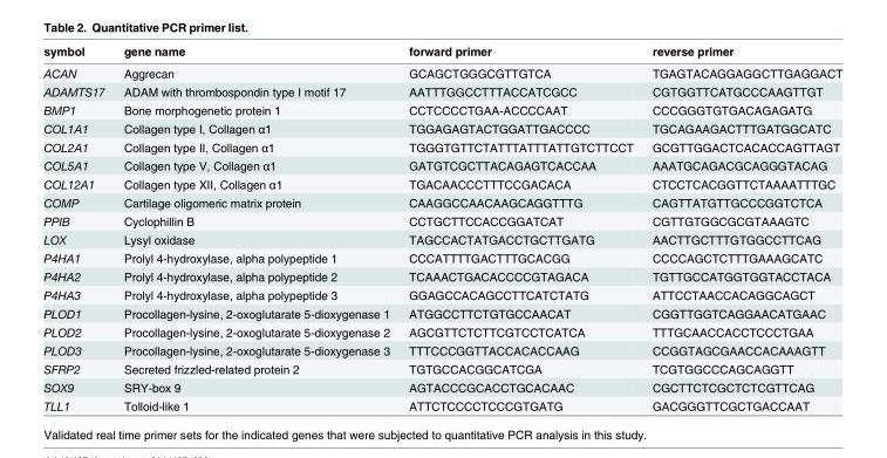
<table><thead><tr><td>symbol</td><td>gene name</td><td>forward primer</td><td>reverse primer</td></tr></thead><tbody><tr><td>ACAN</td><td>Aggrecan</td><td>GCAGCTGGGCGTTGTCA</td><td>TGAGTACAGGAGGCTTGAGGACT</td></tr><tr><td>ADAMTS17</td><td>ADAM with thrombospondin type I motif 17</td><td>AATTTGGCCTTTACCATCGCC</td><td>CGTGGTTCATGCCCAAGTTGT</td></tr><tr><td>BMP1</td><td>Bone morphogenetic protein 1</td><td>CCTCCCCTGAA-ACCCCAAT</td><td>CCCGGGTGTGACAGAGATG</td></tr><tr><td>COL1A1</td><td>Collagen type I, Collagen α1</td><td>TGGAGAGTACTGGATTGACCCC</td><td>TGCAGAAGACTTTGATGGCATC</td></tr><tr><td>COL2A1</td><td>Collagen type II, Collagen α1</td><td>TGGGTGTTCTATTTATTTATTGTCTTCCT</td><td>GCGTTGGACTCACACCAGTTAGT</td></tr><tr><td>COL5A1</td><td>Collagen type V, Collagen α1</td><td>GATGTCGCTTACAGAGTCACCAA</td><td>AAATGCAGACGCAGGGTACAG</td></tr><tr><td>COL12A1</td><td>Collagen type XII, Collagen α1</td><td>TGACAACCCTTTCCGACACA</td><td>CTCCTCACGGTTCTAAAATTTGC</td></tr><tr><td>COMP</td><td>Cartilage oligomeric matrix protein</td><td>CAAGGCCAACAAGCAGGTTTG</td><td>CAGTTATGTTGCCCGGTCTCA</td></tr><tr><td>PPIB</td><td>Cyclophillin B</td><td>CCTGCTTCCACCGGATCAT</td><td>CGTTGTGGCGCGTAAAGTC</td></tr><tr><td>LOX</td><td>Lysyl oxidase</td><td>TAGCCACTATGACCTGCTTGATG</td><td>AACTTGCTTTGTGGCCTTCAG</td></tr><tr><td>P4HA1</td><td>Prolyl 4-hydroxylase, alpha polypeptide 1</td><td>CCCATTTTGACTTTGCACGG</td><td>CCCCAGCTCTTTGAAAGCATC</td></tr><tr><td>P4HA2</td><td>Prolyl 4-hydroxylase, alpha polypeptide 2</td><td>TCAAACTGACACCCCGTAGACA</td><td>TGTTGCCATGGTGGTACCTACA</td></tr><tr><td>P4HA3</td><td>Prolyl 4-hydroxylase, alpha polypeptide 3</td><td>GGAGCCACAGCCTTCATCTATG</td><td>ATTCCTAACCACAGGCAGCT</td></tr><tr><td>PLOD1</td><td>Procollagen-lysine, 2-oxoglutarate 5-dioxygenase 1</td><td>ATGGCCTTCTGTGCCAACAT</td><td>CGGTTGGTCAGGAACATGAAC</td></tr><tr><td>PLOD2</td><td>Procollagen-lysine, 2-oxoglutarate 5-dioxygenase 2</td><td>AGCGTTCTCTTCGTCCTCATCA</td><td>TTTGCAACCACCTCCCTGAA</td></tr><tr><td>PLOD3</td><td>Procollagen-lysine, 2-oxoglutarate 5-dioxygenase 3</td><td>TTTCCCGGTTACCACACCAAG</td><td>CCGGTAGCGAACCACAAAGTT</td></tr><tr><td>SFRP2</td><td>Secreted frizzled-related protein 2</td><td>TGTGCCACGGCATCGA</td><td>TCGTGGCCCAGCAGGTT</td></tr><tr><td>SOX9</td><td>SRY-box 9</td><td>AGTACCCGCACCTGCACAAC</td><td>CGCTTCTCGCTCTCGTTCAG</td></tr><tr><td>TLL1</td><td>Tolloid-like 1</td><td>ATTCTCCCCTCCCGTGATG</td><td>GACGGGTTCGCTGACCAAT</td></tr></tbody></table>